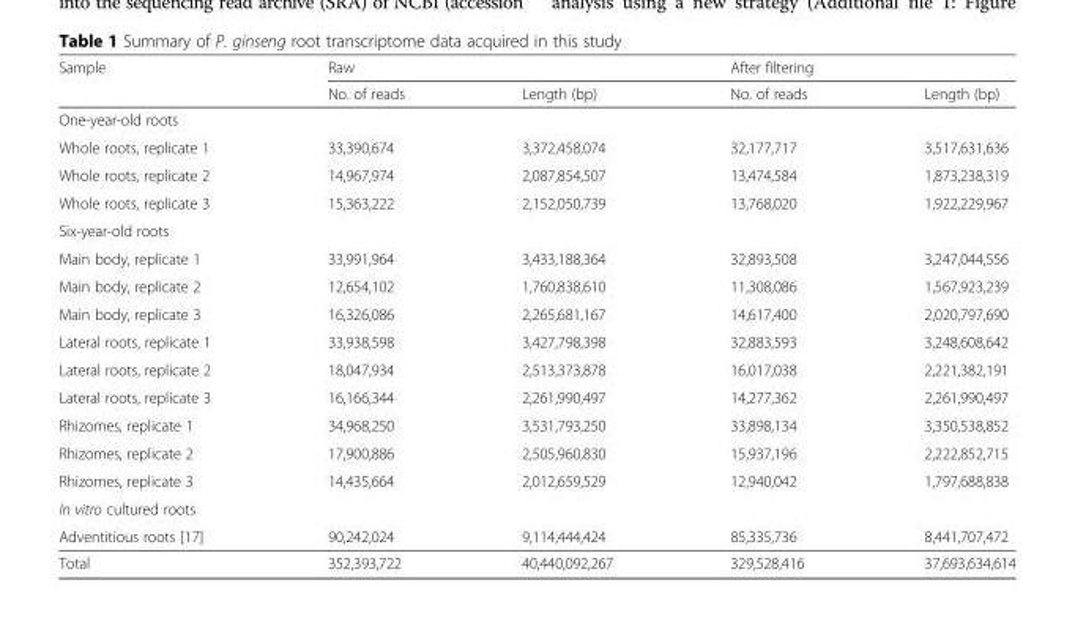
<table><thead><tr><td rowspan="2">Sample</td><td colspan="2">Raw</td><td colspan="2">After filtering</td></tr><tr><td>No. of reads</td><td>Length (bp)</td><td>No. of reads</td><td>Length (bp)</td></tr></thead><tbody><tr><td colspan="5">One-year-old roots</td></tr><tr><td>Whole roots, replicate 1</td><td>33,390,674</td><td>3,372,458,074</td><td>32,177,717</td><td>3,517,631,636</td></tr><tr><td>Whole roots, replicate 2</td><td>14,967,974</td><td>2,087,854,507</td><td>13,474,584</td><td>1,873,238,319</td></tr><tr><td>Whole roots, replicate 3</td><td>15,363,222</td><td>2,152,050,739</td><td>13,768,020</td><td>1,922,229,967</td></tr><tr><td colspan="5">Six-year-old roots</td></tr><tr><td>Main body, replicate 1</td><td>33,991,964</td><td>3,433,188,364</td><td>32,893,508</td><td>3,247,044,556</td></tr><tr><td>Main body, replicate 2</td><td>12,654,102</td><td>1,760,838,610</td><td>11,308,086</td><td>1,567,923,239</td></tr><tr><td>Main body, replicate 3</td><td>16,326,086</td><td>2,265,681,167</td><td>14,617,400</td><td>2,020,797,690</td></tr><tr><td>Lateral roots, replicate 1</td><td>33,938,598</td><td>3,427,798,398</td><td>32,883,593</td><td>3,248,608,642</td></tr><tr><td>Lateral roots, replicate 2</td><td>18,047,934</td><td>2,513,373,878</td><td>16,017,038</td><td>2,221,382,191</td></tr><tr><td>Lateral roots, replicate 3</td><td>16,166,344</td><td>2,261,990,497</td><td>14,277,362</td><td>2,261,990,497</td></tr><tr><td>Rhizomes, replicate 1</td><td>34,968,250</td><td>3,531,793,250</td><td>33,898,134</td><td>3,350,538,852</td></tr><tr><td>Rhizomes, replicate 2</td><td>17,900,886</td><td>2,505,960,830</td><td>15,937,196</td><td>2,222,852,715</td></tr><tr><td>Rhizomes, replicate 3</td><td>14,435,664</td><td>2,012,659,529</td><td>12,940,042</td><td>1,797,688,838</td></tr><tr><td colspan="5">In vitro cultured roots</td></tr><tr><td>Adventitious roots [17]</td><td>90,242,024</td><td>9,114,444,424</td><td>85,335,736</td><td>8,441,707,472</td></tr><tr><td>Total</td><td>352,393,722</td><td>40,440,092,267</td><td>329,528,416</td><td>37,693,634,614</td></tr></tbody></table>